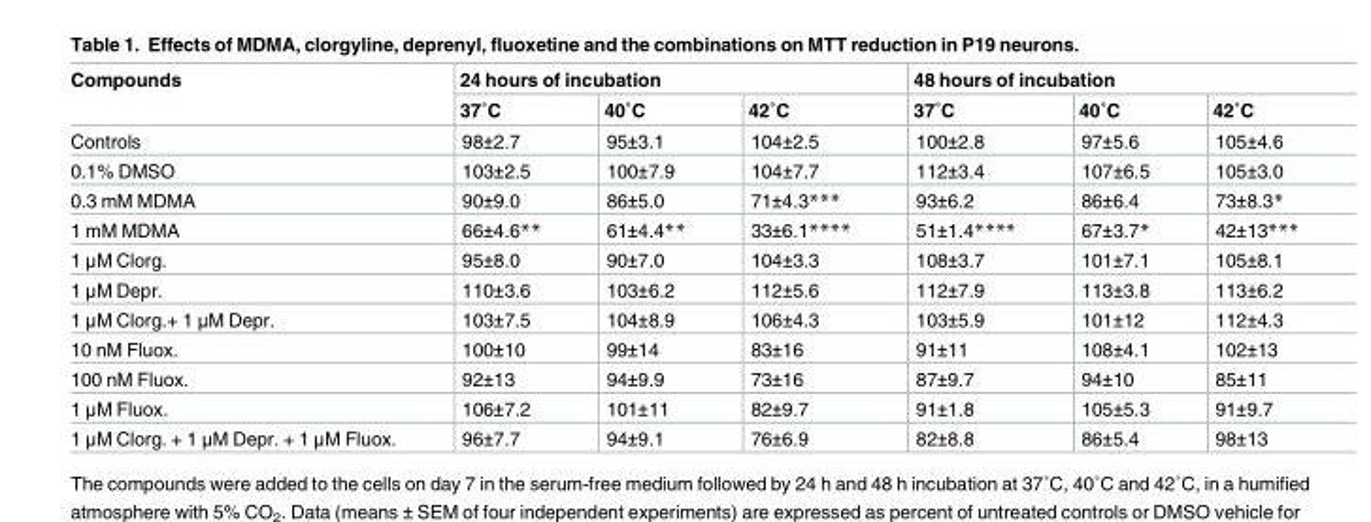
<table><thead><tr><td rowspan="2">Compounds</td><td colspan="3">24 hours of incubation</td><td colspan="3">48 hours of incubation</td></tr><tr><td>37˚C</td><td>40˚C</td><td>42˚C</td><td>37˚C</td><td>40˚C</td><td>42˚C</td></tr></thead><tbody><tr><td>Controls</td><td>98±2.7</td><td>95±3.1</td><td>104±2.5</td><td>100±2.8</td><td>97±5.6</td><td>105±4.6</td></tr><tr><td>0.1% DMSO</td><td>103±2.5</td><td>100±7.9</td><td>104±7.7</td><td>112±3.4</td><td>107±6.5</td><td>105±3.0</td></tr><tr><td>0.3 mM MDMA</td><td>90±9.0</td><td>86±5.0</td><td>71±4.3***</td><td>93±6.2</td><td>86±6.4</td><td>73±8.3*</td></tr><tr><td>1 mM MDMA</td><td>66±4.6**</td><td>61±4.4**</td><td>33±6.1****</td><td>51±1.4****</td><td>67±3.7*</td><td>42±13***</td></tr><tr><td>1 μM Clorg.</td><td>95±8.0</td><td>90±7.0</td><td>104±3.3</td><td>108±3.7</td><td>101±7.1</td><td>105±8.1</td></tr><tr><td>1 μM Depr.</td><td>110±3.6</td><td>103±6.2</td><td>112±5.6</td><td>112±7.9</td><td>113±3.8</td><td>113±6.2</td></tr><tr><td>1 μM Clorg.+ 1 μM Depr.</td><td>103±7.5</td><td>104±8.9</td><td>106±4.3</td><td>103±5.9</td><td>101±12</td><td>112±4.3</td></tr><tr><td>10 nM Fluox.</td><td>100±10</td><td>99±14</td><td>83±16</td><td>91±11</td><td>108±4.1</td><td>102±13</td></tr><tr><td>100 nM Fluox.</td><td>92±13</td><td>94±9.9</td><td>73±16</td><td>87±9.7</td><td>94±10</td><td>85±11</td></tr><tr><td>1 μM Fluox.</td><td>106±7.2</td><td>101±11</td><td>82±9.7</td><td>91±1.8</td><td>105±5.3</td><td>91±9.7</td></tr><tr><td>1 μM Clorg. + 1 μM Depr. + 1 μM Fluox.</td><td>96±7.7</td><td>94±9.1</td><td>76±6.9</td><td>82±8.8</td><td>86±5.4</td><td>98±13</td></tr></tbody></table>